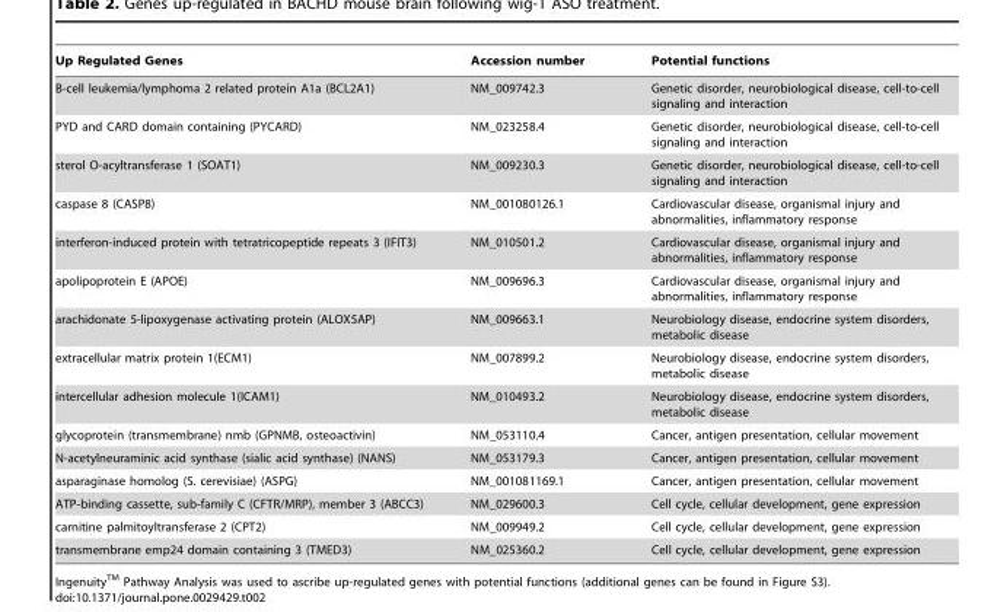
<table><thead><tr><td>Up Regulated Genes</td><td>Accession number</td><td>Potential functions</td></tr></thead><tbody><tr><td>B-cell leukemia/lymphoma 2 related protein A1a (BCL2A1)</td><td>NM_009742.3</td><td>Genetic disorder, neurobiological disease, cell-to-cell signaling and interaction</td></tr><tr><td>PYD and CARD domain containing (PYCARD)</td><td>NM_023258.4</td><td>Genetic disorder, neurobiological disease, cell-to-cell signaling and interaction</td></tr><tr><td>sterol O-acyltransferase 1 (SOAT1)</td><td>NM_009230.3</td><td>Genetic disorder, neurobiological disease, cell-to-cell signaling and interaction</td></tr><tr><td>caspase 8 (CASP8)</td><td>NM_001080126.1</td><td>Cardiovascular disease, organismal injury and abnormalities, inflammatory response</td></tr><tr><td>interferon-induced protein with tetratricopeptide repeats 3 (IFIT3)</td><td>NM_010501.2</td><td>Cardiovascular disease, organismal injury and abnormalities, inflammatory response</td></tr><tr><td>apolipoprotein E (APOE)</td><td>NM_009696.3</td><td>Cardiovascular disease, organismal injury and abnormalities, inflammatory response</td></tr><tr><td>arachidonate 5-lipoxygenase activating protein (ALOX5AP)</td><td>NM_009663.1</td><td>Neurobiology disease, endocrine system disorders, metabolic disease</td></tr><tr><td>extracellular matrix protein 1(ECM1)</td><td>NM_007899.2</td><td>Neurobiology disease, endocrine system disorders, metabolic disease</td></tr><tr><td>intercellular adhesion molecule 1(ICAM1)</td><td>NM_010493.2</td><td>Neurobiology disease, endocrine system disorders, metabolic disease</td></tr><tr><td>glycoprotein (transmembrane) nmb (GPNMB, osteoactivin)</td><td>NM_053110.4</td><td>Cancer, antigen presentation, cellular movement</td></tr><tr><td>N-acetylneuraminic acid synthase (sialic acid synthase) (NANS)</td><td>NM_053179.3</td><td>Cancer, antigen presentation, cellular movement</td></tr><tr><td>asparaginase homolog (S. cerevisiae) (ASPG)</td><td>NM_001081169.1</td><td>Cancer, antigen presentation, cellular movement</td></tr><tr><td>ATP-binding cassette, sub-family C (CFTR/MRP), member 3 (ABCC3)</td><td>NM_029600.3</td><td>Cell cycle, cellular development, gene expression</td></tr><tr><td>carnitine palmitoyltransferase 2 (CPT2)</td><td>NM_009949.2</td><td>Cell cycle, cellular development, gene expression</td></tr><tr><td>transmembrane emp24 domain containing 3 (TMED3)</td><td>NM_025360.2</td><td>Cell cycle, cellular development, gene expression</td></tr></tbody></table>